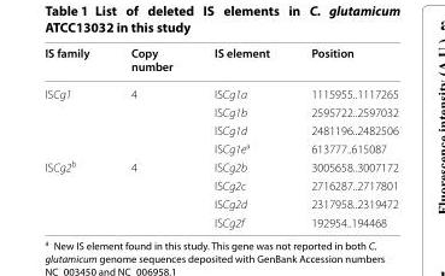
<table><thead><tr><td>IS family</td><td>Copy number</td><td>IS element</td><td>Position</td></tr></thead><tbody><tr><td rowspan="4">ISCg1</td><td>4</td><td>ISCg1a</td><td>1115955..1117265</td></tr><tr><td></td><td>ISCg1b</td><td>2595722..2597032</td></tr><tr><td></td><td>ISCg1d</td><td>2481196..2482506</td></tr><tr><td></td><td>ISCg1e<sup>a</sup></td><td>613777..615087</td></tr><tr><td rowspan="4">ISCg2<sup>b</sup></td><td>4</td><td>ISCg2b</td><td>3005658..3007172</td></tr><tr><td></td><td>ISCg2c</td><td>2716287..2717801</td></tr><tr><td></td><td>ISCg2d</td><td>2317958..2319472</td></tr><tr><td></td><td>ISCg2f</td><td>192954..194468</td></tr></tbody></table>